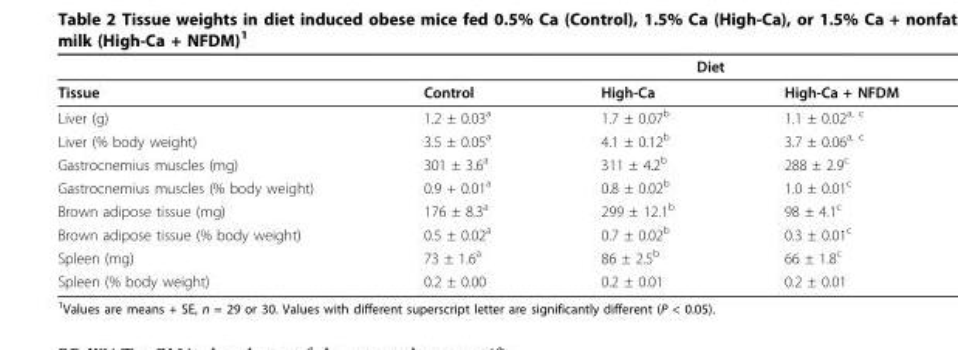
<table><thead><tr><td rowspan="2">Tissue</td><td colspan="3">Diet</td></tr><tr><td>Control</td><td>High-Ca</td><td>High-Ca + NFDM</td></tr></thead><tbody><tr><td>Liver (g)</td><td>1.2 ± 0.03<sup>a</sup></td><td>1.7 ± 0.07<sup>b</sup></td><td>1.1 ± 0.02<sup>a, c</sup></td></tr><tr><td>Liver (% body weight)</td><td>3.5 ± 0.05<sup>a</sup></td><td>4.1 ± 0.12<sup>b</sup></td><td>3.7 ± 0.06<sup>a, c</sup></td></tr><tr><td>Gastrocnemius muscles (mg)</td><td>301 ± 3.6<sup>a</sup></td><td>311 ± 4.2<sup>b</sup></td><td>288 ± 2.9<sup>c</sup></td></tr><tr><td>Gastrocnemius muscles (% body weight)</td><td>0.9 + 0.01<sup>a</sup></td><td>0.8 ± 0.02<sup>b</sup></td><td>1.0 ± 0.01<sup>c</sup></td></tr><tr><td>Brown adipose tissue (mg)</td><td>176 ± 8.3<sup>a</sup></td><td>299 ± 12.1<sup>b</sup></td><td>98 ± 4.1<sup>c</sup></td></tr><tr><td>Brown adipose tissue (% body weight)</td><td>0.5 ± 0.02<sup>a</sup></td><td>0.7 ± 0.02<sup>b</sup></td><td>0.3 ± 0.01<sup>c</sup></td></tr><tr><td>Spleen (mg)</td><td>73 ± 1.6<sup>a</sup></td><td>86 ± 2.5<sup>b</sup></td><td>66 ± 1.8<sup>c</sup></td></tr><tr><td>Spleen (% body weight)</td><td>0.2 ± 0.00</td><td>0.2 ± 0.01</td><td>0.2 ± 0.01</td></tr></tbody></table>